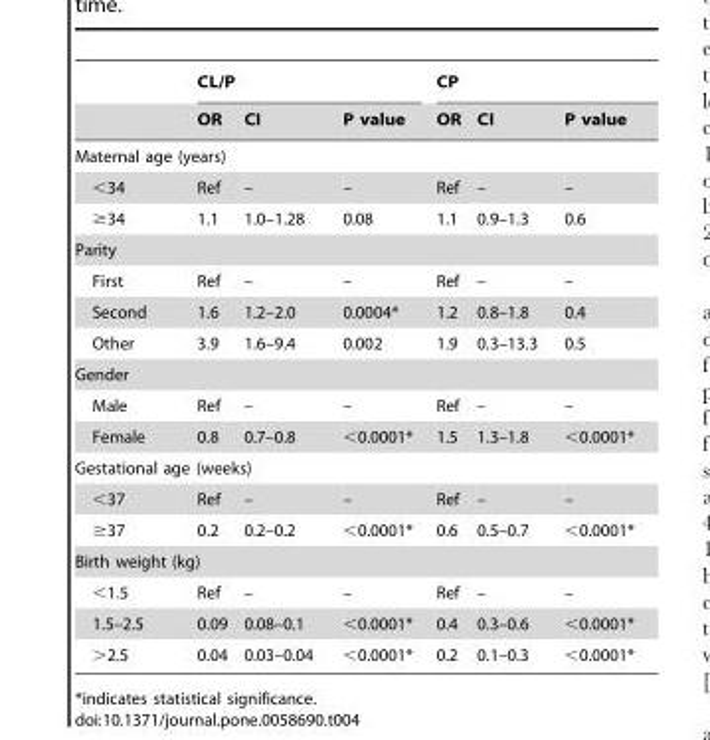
<table><thead><tr><td rowspan="2"></td><td colspan="3">CL/P</td><td colspan="3">CP</td></tr><tr><td>OR</td><td>CI</td><td>P value</td><td>OR</td><td>CI</td><td>P value</td></tr></thead><tbody><tr><td colspan="7">Maternal age (years)</td></tr><tr><td>&lt;34</td><td>Ref</td><td>–</td><td>–</td><td>Ref</td><td>–</td><td>–</td></tr><tr><td>≥34</td><td>1.1</td><td>1.0–1.28</td><td>0.08</td><td>1.1</td><td>0.9–1.3</td><td>0.6</td></tr><tr><td colspan="7">Parity</td></tr><tr><td>First</td><td>Ref</td><td>–</td><td>–</td><td>Ref</td><td>–</td><td>–</td></tr><tr><td>Second</td><td>1.6</td><td>1.2–2.0</td><td>0.0004*</td><td>1.2</td><td>0.8–1.8</td><td>0.4</td></tr><tr><td>Other</td><td>3.9</td><td>1.6–9.4</td><td>0.002</td><td>1.9</td><td>0.3–13.3</td><td>0.5</td></tr><tr><td colspan="7">Gender</td></tr><tr><td>Male</td><td>Ref</td><td>–</td><td>–</td><td>Ref</td><td>–</td><td>–</td></tr><tr><td>Female</td><td>0.8</td><td>0.7–0.8</td><td>&lt;0.0001*</td><td>1.5</td><td>1.3–1.8</td><td>&lt;0.0001*</td></tr><tr><td colspan="7">Gestational age (weeks)</td></tr><tr><td>&lt;37</td><td>Ref</td><td>–</td><td>–</td><td>Ref</td><td>–</td><td>–</td></tr><tr><td>≥37</td><td>0.2</td><td>0.2–0.2</td><td>&lt;0.0001*</td><td>0.6</td><td>0.5–0.7</td><td>&lt;0.0001*</td></tr><tr><td colspan="7">Birth weight (kg)</td></tr><tr><td>&lt;1.5</td><td>Ref</td><td>–</td><td>–</td><td>Ref</td><td>–</td><td>–</td></tr><tr><td>1.5–2.5</td><td>0.09</td><td>0.08–0.1</td><td>&lt;0.0001*</td><td>0.4</td><td>0.3–0.6</td><td>&lt;0.0001*</td></tr><tr><td>&gt;2.5</td><td>0.04</td><td>0.03–0.04</td><td>&lt;0.0001*</td><td>0.2</td><td>0.1–0.3</td><td>&lt;0.0001*</td></tr></tbody></table>